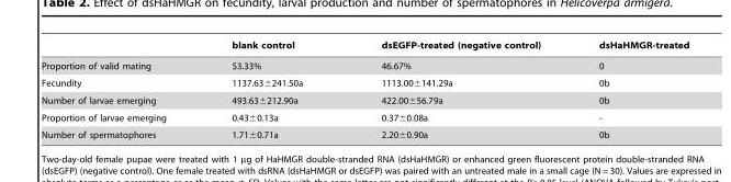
<table><thead><tr><td></td><td>blank control</td><td>dsEGFP-treated (negative control)</td><td>dsHaHMGR-treated</td></tr></thead><tbody><tr><td>Proportion of valid mating</td><td>53.33%</td><td>46.67%</td><td>0</td></tr><tr><td>Fecundity</td><td>1137.63±241.50a</td><td>1113.00±141.29a</td><td>0b</td></tr><tr><td>Number of larvae emerging</td><td>493.63±212.90a</td><td>422.00±56.79a</td><td>0b</td></tr><tr><td>Proportion of larvae emerging</td><td>0.43±0.13a</td><td>0.37±0.08a</td><td>-</td></tr><tr><td>Number of spermatophores</td><td>1.71±0.71a</td><td>2.20±0.90a</td><td>0b</td></tr></tbody></table>